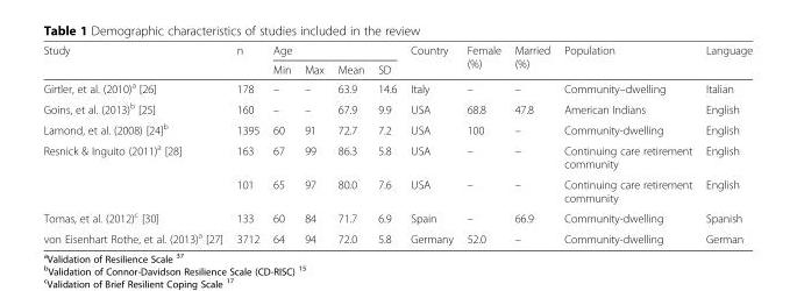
<table><thead><tr><td rowspan="2">Study</td><td rowspan="2">n</td><td colspan="4">Age</td><td rowspan="2">Country</td><td rowspan="2">Female (%)</td><td rowspan="2">Married (%)</td><td rowspan="2">Population</td><td rowspan="2">Language</td></tr><tr><td>Min</td><td>Max</td><td>Mean</td><td>SD</td></tr></thead><tbody><tr><td>Girtler, et al. (2010)<sup>a</sup> [26]</td><td>178</td><td>–</td><td>–</td><td>63.9</td><td>14.6</td><td>Italy</td><td>–</td><td>–</td><td>Community–dwelling</td><td>Italian</td></tr><tr><td>Goins, et al. (2013)<sup>b</sup> [25]</td><td>160</td><td>–</td><td>–</td><td>67.9</td><td>9.9</td><td>USA</td><td>68.8</td><td>47.8</td><td>American Indians</td><td>English</td></tr><tr><td>Lamond, et al. (2008) [24]<sup>b</sup></td><td>1395</td><td>60</td><td>91</td><td>72.7</td><td>7.2</td><td>USA</td><td>100</td><td>–</td><td>Community-dwelling</td><td>English</td></tr><tr><td rowspan="2">Resnick &amp; Inguito (2011)<sup>a</sup> [28]</td><td>163</td><td>67</td><td>99</td><td>86.3</td><td>5.8</td><td>USA</td><td>–</td><td>–</td><td>Continuing care retirement community</td><td>English</td></tr><tr><td>101</td><td>65</td><td>97</td><td>80.0</td><td>7.6</td><td>USA</td><td>–</td><td>–</td><td>Continuing care retirement community</td><td>English</td></tr><tr><td>Tomas, et al. (2012)<sup>c</sup> [30]</td><td>133</td><td>60</td><td>84</td><td>71.7</td><td>6.9</td><td>Spain</td><td>–</td><td>66.9</td><td>Community-dwelling</td><td>Spanish</td></tr><tr><td>von Eisenhart Rothe, et al. (2013)<sup>a</sup> [27]</td><td>3712</td><td>64</td><td>94</td><td>72.0</td><td>5.8</td><td>Germany</td><td>52.0</td><td>–</td><td>Community-dwelling</td><td>German</td></tr></tbody></table>